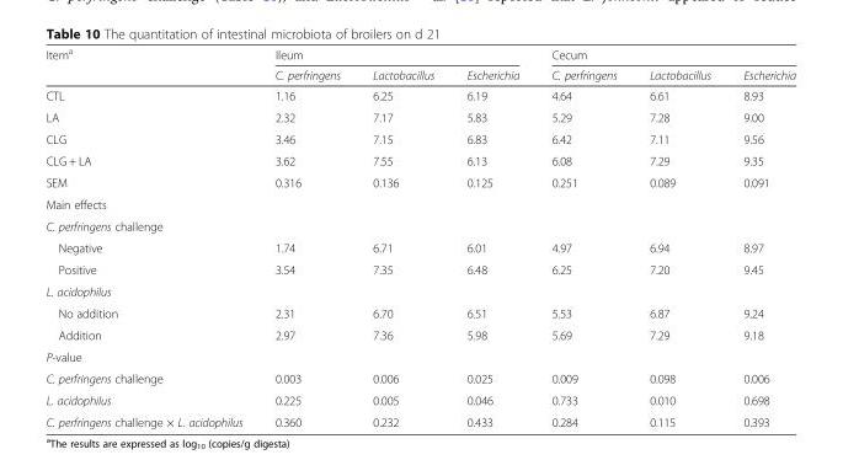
<table><thead><tr><td rowspan="2">Item<sup>a</sup></td><td colspan="3">Ileum</td><td colspan="3">Cecum</td></tr><tr><td>C. perfringens</td><td>Lactobacillus</td><td>Escherichia</td><td>C. perfringens</td><td>Lactobacillus</td><td>Escherichia</td></tr></thead><tbody><tr><td>CTL</td><td>1.16</td><td>6.25</td><td>6.19</td><td>4.64</td><td>6.61</td><td>8.93</td></tr><tr><td>LA</td><td>2.32</td><td>7.17</td><td>5.83</td><td>5.29</td><td>7.28</td><td>9.00</td></tr><tr><td>CLG</td><td>3.46</td><td>7.15</td><td>6.83</td><td>6.42</td><td>7.11</td><td>9.56</td></tr><tr><td>CLG + LA</td><td>3.62</td><td>7.55</td><td>6.13</td><td>6.08</td><td>7.29</td><td>9.35</td></tr><tr><td>SEM</td><td>0.316</td><td>0.136</td><td>0.125</td><td>0.251</td><td>0.089</td><td>0.091</td></tr><tr><td colspan="7">Main effects</td></tr><tr><td colspan="7">C. perfringens challenge</td></tr><tr><td>Negative</td><td>1.74</td><td>6.71</td><td>6.01</td><td>4.97</td><td>6.94</td><td>8.97</td></tr><tr><td>Positive</td><td>3.54</td><td>7.35</td><td>6.48</td><td>6.25</td><td>7.20</td><td>9.45</td></tr><tr><td colspan="7">L. acidophilus</td></tr><tr><td>No addition</td><td>2.31</td><td>6.70</td><td>6.51</td><td>5.53</td><td>6.87</td><td>9.24</td></tr><tr><td>Addition</td><td>2.97</td><td>7.36</td><td>5.98</td><td>5.69</td><td>7.29</td><td>9.18</td></tr><tr><td colspan="7">P-value</td></tr><tr><td>C. perfringens challenge</td><td>0.003</td><td>0.006</td><td>0.025</td><td>0.009</td><td>0.098</td><td>0.006</td></tr><tr><td>L. acidophilus</td><td>0.225</td><td>0.005</td><td>0.046</td><td>0.733</td><td>0.010</td><td>0.698</td></tr><tr><td>C. perfringens challenge × L. acidophilus</td><td>0.360</td><td>0.232</td><td>0.433</td><td>0.284</td><td>0.115</td><td>0.393</td></tr></tbody></table>